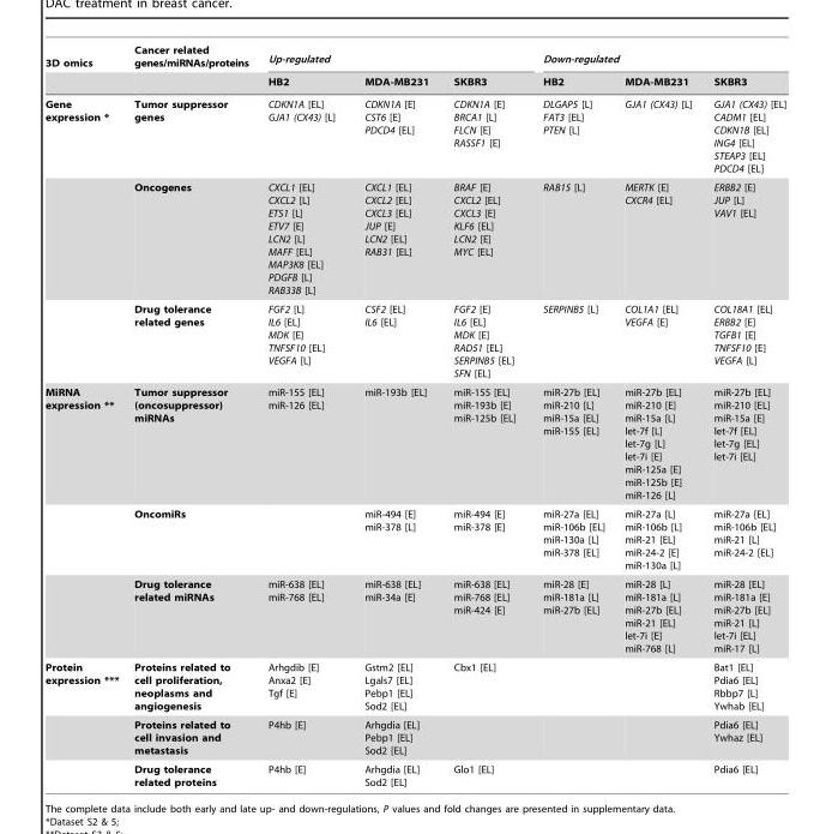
<table><thead><tr><td rowspan="2">3D omics</td><td rowspan="2">Cancer related genes/miRNAs/proteins</td><td colspan="3">Up-regulated</td><td colspan="3">Down-regulated</td></tr><tr><td>HB2</td><td>MDA-MB231</td><td>SKBR3</td><td>HB2</td><td>MDA-MB231</td><td>SKBR3</td></tr></thead><tbody><tr><td rowspan="3">Gene expression *</td><td>Tumor suppressor genes</td><td>CDKN1A [EL] GJA1 (CX43) [L]</td><td>CDKN1A [E] CST6 [E] PDCD4 [EL]</td><td>CDKN1A [E] BRCA1 [L] FLCN [E] RASSF1 [E]</td><td>DLGAP5 [L] FAT3 [EL] PTEN [L]</td><td>GJA1 (CX43) [L]</td><td>GJA1 (CX43) [EL] CADM1 [EL] CDKN1B [EL] ING4 [EL] STEAP3 [EL] PDCD4 [EL]</td></tr><tr><td>Oncogenes</td><td>CXCL1 [EL] CXCL2 [L] ETS1 [L] ETV7 [E] LCN2 [L] MAFF [EL] MAP3K8 [EL] PDGFB [L] RAB33B [L]</td><td>CXCL1 [EL] CXCL2 [EL] CXCL3 [EL] JUP [E] LCN2 [EL] RAB31 [EL]</td><td>BRAF [E] CXCL2 [EL] CXCL3 [E] KLF6 [EL] LCN2 [E] MYC [EL]</td><td>RAB15 [L]</td><td>MERTK [E] CXCR4 [EL]</td><td>ERBB2 [E] JUP [L] VAV1 [EL]</td></tr><tr><td>Drug tolerance related genes</td><td>FGF2 [L] IL6 [EL] MDK [E] TNFSF10 [EL] VEGFA [L]</td><td>CSF2 [EL] IL6 [EL]</td><td>FGF2 [E] IL6 [EL] MDK [E] RAD51 [EL] SERPINB5 [EL] SFN [EL]</td><td>SERPINB5 [L]</td><td>COL1A1 [EL] VEGFA [E]</td><td>COL18A1 [EL] ERBB2 [E] TGFB1 [E] TNFSF10 [E] VEGFA [L]</td></tr><tr><td rowspan="3">MiRNA expression **</td><td>Tumor suppressor (oncosuppressor) miRNAs</td><td>miR-155 [EL] miR-126 [EL]</td><td>miR-193b [EL]</td><td>miR-155 [EL] miR-193b [E] miR-125b [EL]</td><td>miR-27b [EL] miR-210 [L] miR-15a [EL] miR-155 [EL]</td><td>miR-27b [EL] miR-210 [E] miR-15a [L] let-7f [L] let-7g [L] let-7i [E] miR-125a [E] miR-125b [E] miR-126 [L]</td><td>miR-27b [EL] miR-210 [EL] miR-15a [E] let-7f [EL] let-7g [EL] let-7i [EL]</td></tr><tr><td>OncomiRs</td><td></td><td>miR-494 [E] miR-378 [L]</td><td>miR-494 [E] miR-378 [E]</td><td>miR-27a [EL] miR-106b [EL] miR-130a [L] miR-378 [EL]</td><td>miR-27a [L] miR-106b [L] miR-21 [EL] miR-24-2 [E] miR-130a [L]</td><td>miR-27a [EL] miR-106b [EL] miR-21 [L] miR-24-2 [EL]</td></tr><tr><td>Drug tolerance related miRNAs</td><td>miR-638 [EL] miR-768 [EL]</td><td>miR-638 [EL] miR-34a [E]</td><td>miR-638 [EL] miR-768 [EL] miR-424 [E]</td><td>miR-28 [E] miR-181a [L] miR-27b [EL]</td><td>miR-28 [L] miR-181a [L] miR-27b [EL] miR-21 [EL] let-7i [E] miR-768 [L]</td><td>miR-28 [EL] miR-181a [E] miR-27b [EL] miR-21 [L] let-7i [EL] miR-17 [L]</td></tr><tr><td rowspan="3">Protein expression ***</td><td>Proteins related to cell proliferation, neoplasms and angiogenesis</td><td>Arhgdib [E] Anxa2 [E] Tgf [E]</td><td>Gstm2 [EL] Lgals7 [EL] Pebp1 [EL] Sod2 [EL]</td><td>Cbx1 [EL]</td><td></td><td></td><td>Bat1 [EL] Pdia6 [EL] Rbbp7 [L] Ywhab [EL]</td></tr><tr><td>Proteins related to cell invasion and metastasis</td><td>P4hb [E]</td><td>Arhgdia [EL] Pebp1 [EL] Sod2 [EL]</td><td></td><td></td><td></td><td>Pdia6 [EL] Ywhaz [EL]</td></tr><tr><td>Drug tolerance related proteins</td><td>P4hb [E]</td><td>Arhgdia [EL] Sod2 [EL]</td><td>Glo1 [EL]</td><td></td><td></td><td>Pdia6 [EL]</td></tr></tbody></table>